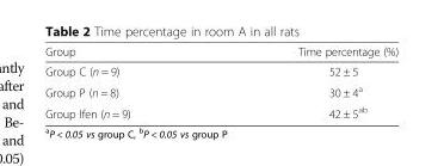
<table><thead><tr><td>Group</td><td>Time percentage (%)</td></tr></thead><tbody><tr><td>Group C (n = 9)</td><td>52 ± 5</td></tr><tr><td>Group P (n = 8)</td><td>30 ± 4<sup>a</sup></td></tr><tr><td>Group Ifen (n = 9)</td><td>42 ± 5<sup>ab</sup></td></tr></tbody></table>